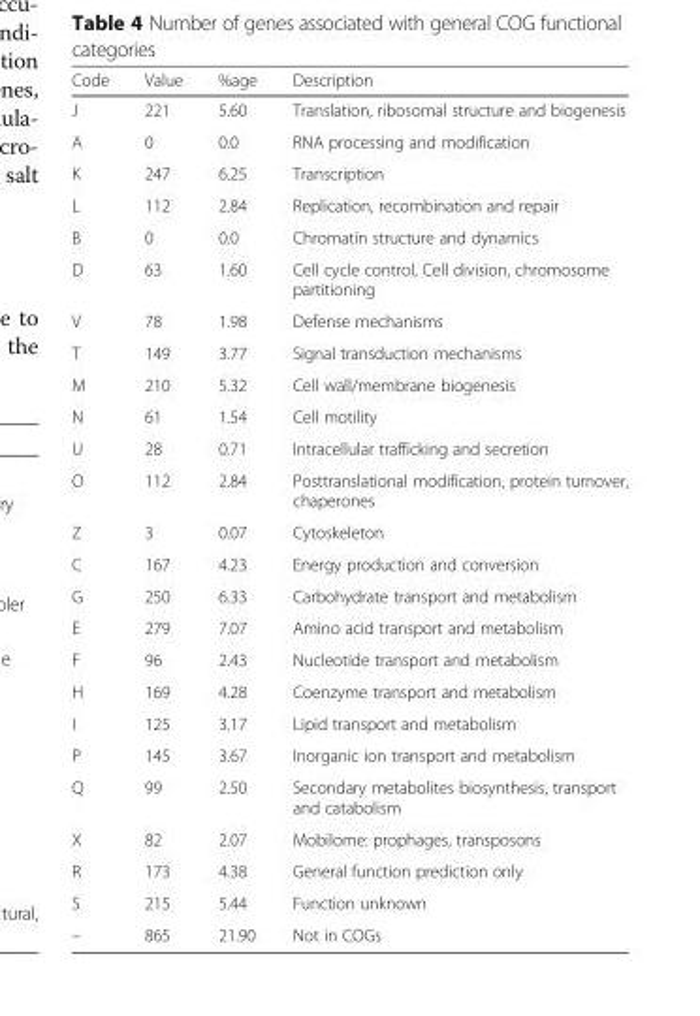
<table><thead><tr><td>Code</td><td>Value</td><td>%age</td><td>Description</td></tr></thead><tbody><tr><td>J</td><td>221</td><td>5.60</td><td>Translation, ribosomal structure and biogenesis</td></tr><tr><td>A</td><td>0</td><td>0.0</td><td>RNA processing and modification</td></tr><tr><td>K</td><td>247</td><td>6.25</td><td>Transcription</td></tr><tr><td>L</td><td>112</td><td>2.84</td><td>Replication, recombination and repair</td></tr><tr><td>B</td><td>0</td><td>0.0</td><td>Chromatin structure and dynamics</td></tr><tr><td>D</td><td>63</td><td>1.60</td><td>Cell cycle control, Cell division, chromosome partitioning</td></tr><tr><td>V</td><td>78</td><td>1.98</td><td>Defense mechanisms</td></tr><tr><td>T</td><td>149</td><td>3.77</td><td>Signal transduction mechanisms</td></tr><tr><td>M</td><td>210</td><td>5.32</td><td>Cell wall/membrane biogenesis</td></tr><tr><td>N</td><td>61</td><td>1.54</td><td>Cell motility</td></tr><tr><td>U</td><td>28</td><td>0.71</td><td>Intracellular trafficking and secretion</td></tr><tr><td>O</td><td>112</td><td>2.84</td><td>Posttranslational modification, protein turnover, chaperones</td></tr><tr><td>Z</td><td>3</td><td>0.07</td><td>Cytoskeleton</td></tr><tr><td>C</td><td>167</td><td>4.23</td><td>Energy production and conversion</td></tr><tr><td>G</td><td>250</td><td>6.33</td><td>Carbohydrate transport and metabolism</td></tr><tr><td>E</td><td>279</td><td>7.07</td><td>Amino acid transport and metabolism</td></tr><tr><td>F</td><td>96</td><td>2.43</td><td>Nucleotide transport and metabolism</td></tr><tr><td>H</td><td>169</td><td>4.28</td><td>Coenzyme transport and metabolism</td></tr><tr><td>I</td><td>125</td><td>3.17</td><td>Lipid transport and metabolism</td></tr><tr><td>P</td><td>145</td><td>3.67</td><td>Inorganic ion transport and metabolism</td></tr><tr><td>Q</td><td>99</td><td>2.50</td><td>Secondary metabolites biosynthesis, transport and catabolism</td></tr><tr><td>X</td><td>82</td><td>2.07</td><td>Mobilome: prophages, transposons</td></tr><tr><td>R</td><td>173</td><td>4.38</td><td>General function prediction only</td></tr><tr><td>S</td><td>215</td><td>5.44</td><td>Function unknown</td></tr><tr><td>–</td><td>865</td><td>21.90</td><td>Not in COGs</td></tr></tbody></table>